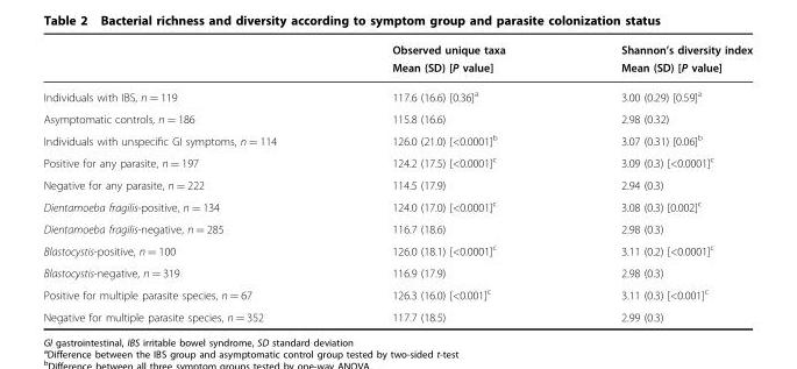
<table><thead><tr><td></td><td>Observed unique taxa Mean (SD) [P value]</td><td>Shannon’s diversity index Mean (SD) [P value]</td></tr></thead><tbody><tr><td>Individuals with IBS, n = 119</td><td>117.6 (16.6) [0.36]<sup>a</sup></td><td>3.00 (0.29) [0.59]<sup>a</sup></td></tr><tr><td>Asymptomatic controls, n = 186</td><td>115.8 (16.6)</td><td>2.98 (0.32)</td></tr><tr><td>Individuals with unspecific GI symptoms, n = 114</td><td>126.0 (21.0) [&lt;0.0001]<sup>b</sup></td><td>3.07 (0.31) [0.06]<sup>b</sup></td></tr><tr><td>Positive for any parasite, n = 197</td><td>124.2 (17.5) [&lt;0.0001]<sup>c</sup></td><td>3.09 (0.3) [&lt;0.0001]<sup>c</sup></td></tr><tr><td>Negative for any parasite, n = 222</td><td>114.5 (17.9)</td><td>2.94 (0.3)</td></tr><tr><td>Dientamoeba fragilis-positive, n = 134</td><td>124.0 (17.0) [&lt;0.0001]<sup>c</sup></td><td>3.08 (0.3) [0.002]<sup>c</sup></td></tr><tr><td>Dientamoeba fragilis-negative, n = 285</td><td>116.7 (18.6)</td><td>2.98 (0.3)</td></tr><tr><td>Blastocystis-positive, n = 100</td><td>126.0 (18.1) [&lt;0.0001]<sup>c</sup></td><td>3.11 (0.2) [&lt;0.0001]<sup>c</sup></td></tr><tr><td>Blastocystis-negative, n = 319</td><td>116.9 (17.9)</td><td>2.98 (0.3)</td></tr><tr><td>Positive for multiple parasite species, n = 67</td><td>126.3 (16.0) [&lt;0.001]<sup>c</sup></td><td>3.11 (0.3) [&lt;0.001]<sup>c</sup></td></tr><tr><td>Negative for multiple parasite species, n = 352</td><td>117.7 (18.5)</td><td>2.99 (0.3)</td></tr></tbody></table>